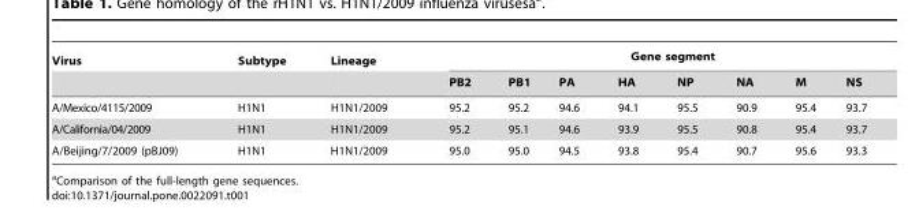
<table><thead><tr><td rowspan="2">Virus</td><td rowspan="2">Subtype</td><td rowspan="2">Lineage</td><td colspan="8">Gene segment</td></tr><tr><td>PB2</td><td>PB1</td><td>PA</td><td>HA</td><td>NP</td><td>NA</td><td>M</td><td>NS</td></tr></thead><tbody><tr><td>A/Mexico/4115/2009</td><td>H1N1</td><td>H1N1/2009</td><td>95.2</td><td>95.2</td><td>94.6</td><td>94.1</td><td>95.5</td><td>90.9</td><td>95.4</td><td>93.7</td></tr><tr><td>A/California/04/2009</td><td>H1N1</td><td>H1N1/2009</td><td>95.2</td><td>95.1</td><td>94.6</td><td>93.9</td><td>95.5</td><td>90.8</td><td>95.4</td><td>93.7</td></tr><tr><td>A/Beijing/7/2009 (pBJ09)</td><td>H1N1</td><td>H1N1/2009</td><td>95.0</td><td>95.0</td><td>94.5</td><td>93.8</td><td>95.4</td><td>90.7</td><td>95.6</td><td>93.3</td></tr></tbody></table>